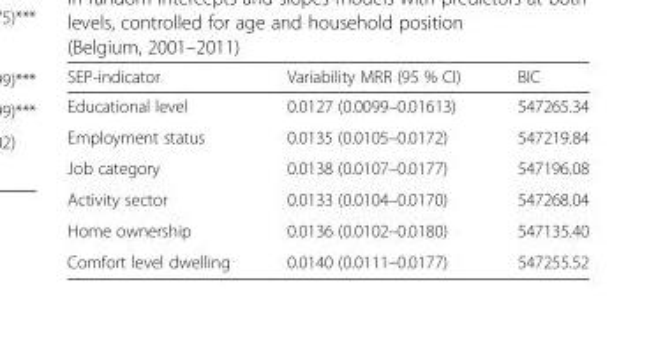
<table><thead><tr><td>SEP-indicator</td><td>Variability MRR (95 % CI)</td><td>BIC</td></tr></thead><tbody><tr><td>Educational level</td><td>0.0127 (0.0099–0.01613)</td><td>547265.34</td></tr><tr><td>Employment status</td><td>0.0135 (0.0105–0.0172)</td><td>547219.84</td></tr><tr><td>Job category</td><td>0.0138 (0.0107–0.0177)</td><td>547196.08</td></tr><tr><td>Activity sector</td><td>0.0133 (0.0104–0.0170)</td><td>547268.04</td></tr><tr><td>Home ownership</td><td>0.0136 (0.0102–0.0180)</td><td>547135.40</td></tr><tr><td>Comfort level dwelling</td><td>0.0140 (0.0111–0.0177)</td><td>547255.52</td></tr></tbody></table>